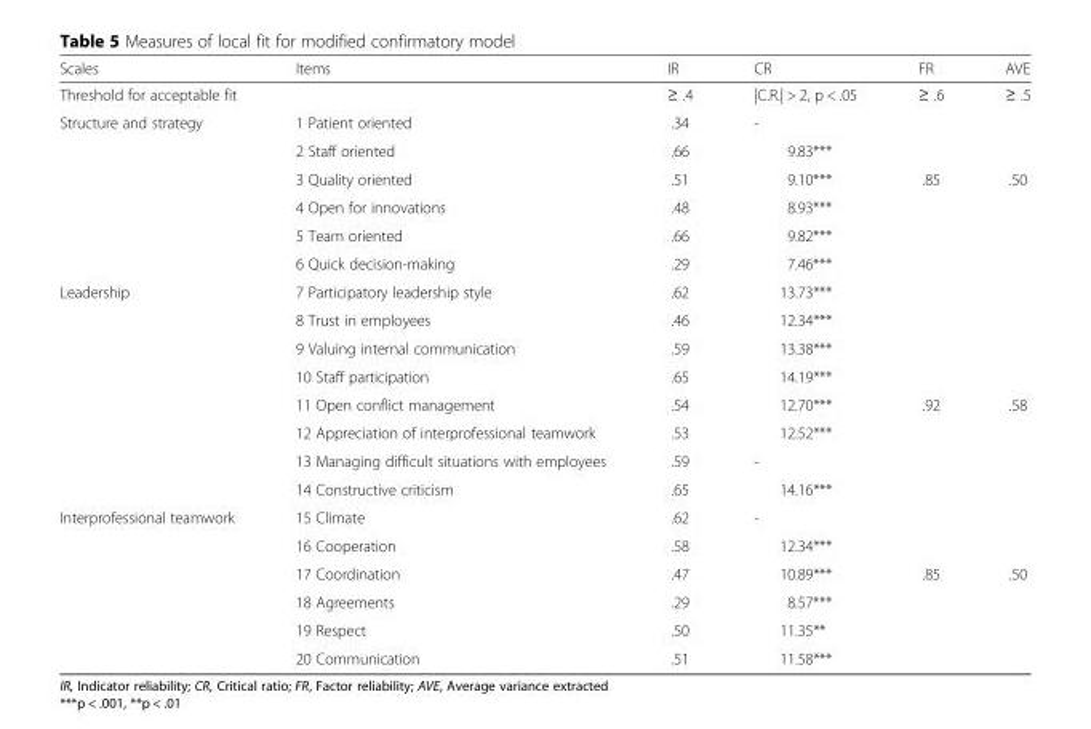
<table><thead><tr><td>Scales</td><td>Items</td><td>IR</td><td>CR</td><td>FR</td><td>AVE</td></tr></thead><tbody><tr><td colspan="2">Threshold for acceptable fit</td><td>≥ .4</td><td>|C.R.| &gt; 2, p &lt; .05</td><td>≥ .6</td><td>≥ .5</td></tr><tr><td rowspan="6">Structure and strategy</td><td>1 Patient oriented</td><td>.34</td><td>-</td><td></td><td></td></tr><tr><td>2 Staff oriented</td><td>.66</td><td>9.83***</td><td></td><td></td></tr><tr><td>3 Quality oriented</td><td>.51</td><td>9.10***</td><td>.85</td><td>.50</td></tr><tr><td>4 Open for innovations</td><td>.48</td><td>8.93***</td><td></td><td></td></tr><tr><td>5 Team oriented</td><td>.66</td><td>9.82***</td><td></td><td></td></tr><tr><td>6 Quick decision-making</td><td>.29</td><td>7.46***</td><td></td><td></td></tr><tr><td rowspan="8">Leadership</td><td>7 Participatory leadership style</td><td>.62</td><td>13.73***</td><td></td><td></td></tr><tr><td>8 Trust in employees</td><td>.46</td><td>12.34***</td><td></td><td></td></tr><tr><td>9 Valuing internal communication</td><td>.59</td><td>13.38***</td><td></td><td></td></tr><tr><td>10 Staff participation</td><td>.65</td><td>14.19***</td><td></td><td></td></tr><tr><td>11 Open conflict management</td><td>.54</td><td>12.70***</td><td>.92</td><td>.58</td></tr><tr><td>12 Appreciation of interprofessional teamwork</td><td>.53</td><td>12.52***</td><td></td><td></td></tr><tr><td>13 Managing difficult situations with employees</td><td>.59</td><td>-</td><td></td><td></td></tr><tr><td>14 Constructive criticism</td><td>.65</td><td>14.16***</td><td></td><td></td></tr><tr><td rowspan="6">Interprofessional teamwork</td><td>15 Climate</td><td>.62</td><td>-</td><td></td><td></td></tr><tr><td>16 Cooperation</td><td>.58</td><td>12.34***</td><td></td><td></td></tr><tr><td>17 Coordination</td><td>.47</td><td>10.89***</td><td>.85</td><td>.50</td></tr><tr><td>18 Agreements</td><td>.29</td><td>8.57***</td><td></td><td></td></tr><tr><td>19 Respect</td><td>.50</td><td>11.35**</td><td></td><td></td></tr><tr><td>20 Communication</td><td>.51</td><td>11.58***</td><td></td><td></td></tr></tbody></table>